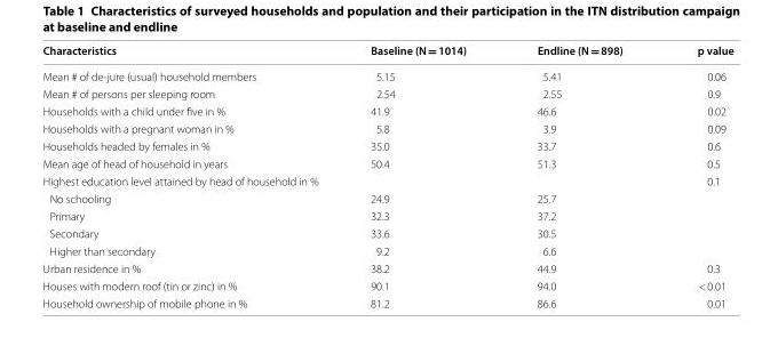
<table><thead><tr><td>Characteristics</td><td>Baseline (N = 1014)</td><td>Endline (N = 898)</td><td>p value</td></tr></thead><tbody><tr><td>Mean # of de‑jure (usual) household members</td><td>5.15</td><td>5.41</td><td>0.06</td></tr><tr><td>Mean # of persons per sleeping room</td><td>2.54</td><td>2.55</td><td>0.9</td></tr><tr><td>Households with a child under five in %</td><td>41.9</td><td>46.6</td><td>0.02</td></tr><tr><td>Households with a pregnant woman in %</td><td>5.8</td><td>3.9</td><td>0.09</td></tr><tr><td>Households headed by females in %</td><td>35.0</td><td>33.7</td><td>0.6</td></tr><tr><td>Mean age of head of household in years</td><td>50.4</td><td>51.3</td><td>0.5</td></tr><tr><td>Highest education level attained by head of household in %</td><td></td><td></td><td>0.1</td></tr><tr><td>No schooling</td><td>24.9</td><td>25.7</td><td></td></tr><tr><td>Primary</td><td>32.3</td><td>37.2</td><td></td></tr><tr><td>Secondary</td><td>33.6</td><td>30.5</td><td></td></tr><tr><td>Higher than secondary</td><td>9.2</td><td>6.6</td><td></td></tr><tr><td>Urban residence in %</td><td>38.2</td><td>44.9</td><td>0.3</td></tr><tr><td>Houses with modern roof (tin or zinc) in %</td><td>90.1</td><td>94.0</td><td>&lt; 0.01</td></tr><tr><td>Household ownership of mobile phone in %</td><td>81.2</td><td>86.6</td><td>0.01</td></tr></tbody></table>